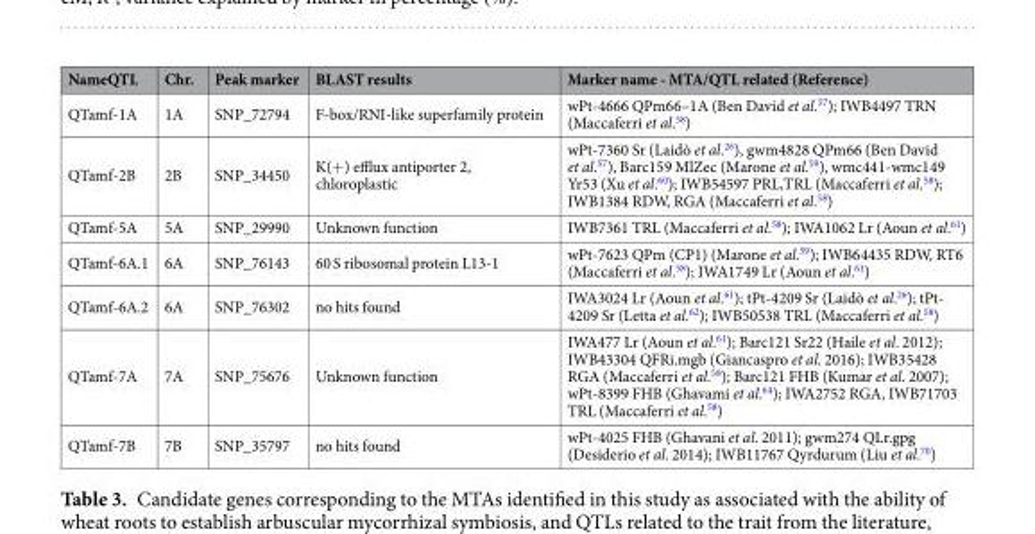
<table><thead><tr><td>NameQTL</td><td>Chr.</td><td>Peak marker</td><td>BLAST results</td><td>Marker name - MTA/QTL related (Reference)</td></tr></thead><tbody><tr><td>QTamf-1A</td><td>1A</td><td>SNP_72794</td><td>F-box/RNI-like superfamily protein</td><td>wPt-4666 QPm66–1A (Ben David et al.<sup>57</sup>); IWB4497 TRN (Maccaferri et al.<sup>58</sup>)</td></tr><tr><td>QTamf-2B</td><td>2B</td><td>SNP_34450</td><td>K(+) efflux antiporter 2, chloroplastic</td><td>wPt-7360 Sr (Laidò et al.<sup>26</sup>), gwm4828 QPm66 (Ben David et al.<sup>57</sup>), Barc159 MlZec (Marone et al.<sup>59</sup>), wmc441-wmc149 Yr53 (Xu et al.<sup>60</sup>); IWB54597 PRL,TRL (Maccaferri et al.<sup>58</sup>); IWB1384 RDW, RGA (Maccaferri et al.<sup>58</sup>)</td></tr><tr><td>QTamf-5A</td><td>5A</td><td>SNP_29990</td><td>Unknown function</td><td>IWB7361 TRL (Maccaferri et al.<sup>58</sup>); IWA1062 Lr (Aoun et al.<sup>61</sup>)</td></tr><tr><td>QTamf-6A.1</td><td>6A</td><td>SNP_76143</td><td>60 S ribosomal protein L13-1</td><td>wPt-7623 QPm (CP1) (Marone et al.<sup>59</sup>); IWB64435 RDW, RT6 (Maccaferri et al.<sup>58</sup>); IWA1749 Lr (Aoun et al.<sup>61</sup>)</td></tr><tr><td>QTamf-6A.2</td><td>6A</td><td>SNP_76302</td><td>no hits found</td><td>IWA3024 Lr (Aoun et al.<sup>61</sup>); tPt-4209 Sr (Laidò et al.<sup>26</sup>); tPt- 4209 Sr (Letta et al.<sup>62</sup>); IWB50538 TRL (Maccaferri et al.<sup>58</sup>)</td></tr><tr><td>QTamf-7A</td><td>7A</td><td>SNP_75676</td><td>Unknown function</td><td>IWA477 Lr (Aoun et al.<sup>61</sup>); Barc121 Sr22 (Haile et al. 2012); IWB43304 QFRi.mgb (Giancaspro et al. 2016); IWB35428 RGA (Maccaferri et al.<sup>58</sup>); Barc121 FHB (Kumar et al. 2007); wPt-8399 FHB (Ghavami et al.<sup>64</sup>); IWA2752 RGA, IWB71703 TRL (Maccaferri et al.<sup>58</sup>)</td></tr><tr><td>QTamf-7B</td><td>7B</td><td>SNP_35797</td><td>no hits found</td><td>wPt-4025 FHB (Ghavani et al. 2011); gwm274 QLr.gpg (Desiderio et al. 2014); IWB11767 Qyrdurum (Liu et al.<sup>70</sup>)</td></tr></tbody></table>